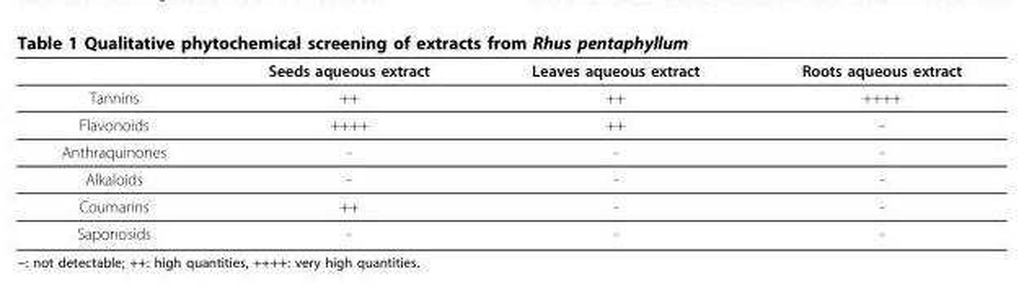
<table><thead><tr><td></td><td>Seeds aqueous extract</td><td>Leaves aqueous extract</td><td>Roots aqueous extract</td></tr></thead><tbody><tr><td>Tannins</td><td>++</td><td>++</td><td>++++</td></tr><tr><td>Flavonoids</td><td>++++</td><td>++</td><td>-</td></tr><tr><td>Anthraquinones</td><td>-</td><td>-</td><td>-</td></tr><tr><td>Alkaloids</td><td>-</td><td>-</td><td>-</td></tr><tr><td>Coumarins</td><td>++</td><td>-</td><td>-</td></tr><tr><td>Saponosids</td><td>-</td><td>-</td><td>-</td></tr></tbody></table>